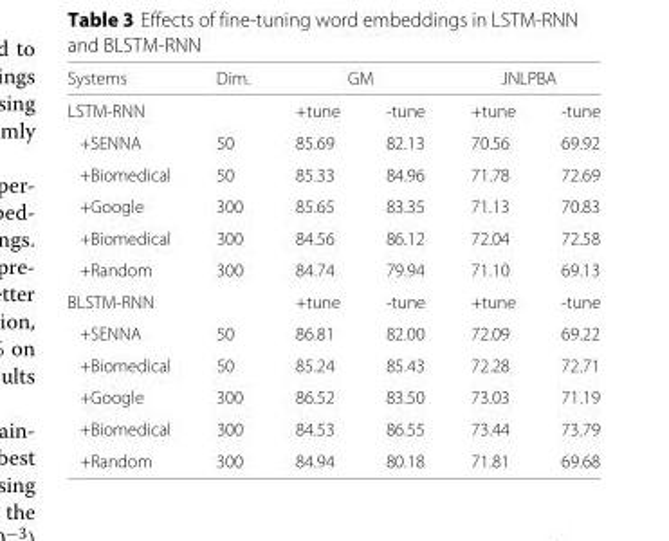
<table><thead><tr><td rowspan="2">Systems LSTM-RNN</td><td rowspan="2">Dim.</td><td colspan="2">GM</td><td colspan="2">JNLPBA</td></tr><tr><td>+tune</td><td>-tune</td><td>+tune</td><td>-tune</td></tr></thead><tbody><tr><td>+SENNA</td><td>50</td><td>85.69</td><td>82.13</td><td>70.56</td><td>69.92</td></tr><tr><td>+Biomedical</td><td>50</td><td>85.33</td><td>84.96</td><td>71.78</td><td>72.69</td></tr><tr><td>+Google</td><td>300</td><td>85.65</td><td>83.35</td><td>71.13</td><td>70.83</td></tr><tr><td>+Biomedical</td><td>300</td><td>84.56</td><td>86.12</td><td>72.04</td><td>72.58</td></tr><tr><td>+Random</td><td>300</td><td>84.74</td><td>79.94</td><td>71.10</td><td>69.13</td></tr><tr><td>BLSTM-RNN</td><td></td><td>+tune</td><td>-tune</td><td>+tune</td><td>-tune</td></tr><tr><td>+SENNA</td><td>50</td><td>86.81</td><td>82.00</td><td>72.09</td><td>69.22</td></tr><tr><td>+Biomedical</td><td>50</td><td>85.24</td><td>85.43</td><td>72.28</td><td>72.71</td></tr><tr><td>+Google</td><td>300</td><td>86.52</td><td>83.50</td><td>73.03</td><td>71.19</td></tr><tr><td>+Biomedical</td><td>300</td><td>84.53</td><td>86.55</td><td>73.44</td><td>73.79</td></tr><tr><td>+Random</td><td>300</td><td>84.94</td><td>80.18</td><td>71.81</td><td>69.68</td></tr></tbody></table>